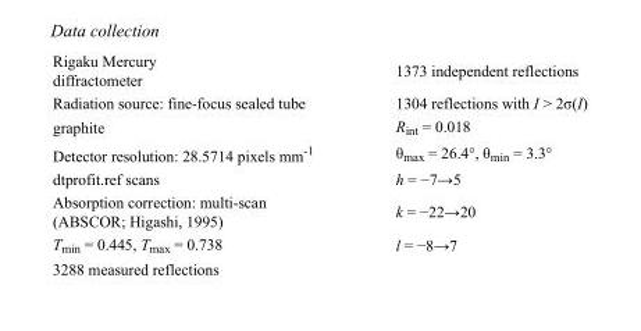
<table><tbody><tr><td>Rigaku Mercury diffractometer</td><td>1373 independent reflections</td></tr><tr><td>Radiation source: fine-focus sealed tube</td><td>1304 reflections with I &gt; 2σ(I)</td></tr><tr><td>graphite</td><td>R<sub>int</sub> = 0.018</td></tr><tr><td>Detector resolution: 28.5714 pixels mm<sup>-1</sup></td><td>θ<sub>max</sub> = 26.4°, θ<sub>min</sub> = 3.3°</td></tr><tr><td>dtprofit.ref scans</td><td>h = −7→5</td></tr><tr><td>Absorption correction: multi-scan (ABSCOR; Higashi, 1995)</td><td>k = −22→20</td></tr><tr><td>T<sub>min</sub> = 0.445, T<sub>max</sub> = 0.738</td><td>l = −8→7</td></tr><tr><td>3288 measured reflections</td><td></td></tr></tbody></table>